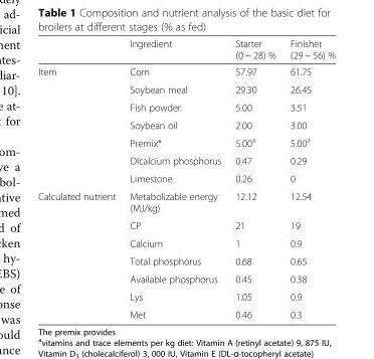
<table><thead><tr><td></td><td>Ingredient</td><td>Starter (0 ~ 28) %</td><td>Finisher (29 ~ 56) %</td></tr></thead><tbody><tr><td rowspan="7">Item</td><td>Corn</td><td>57.97</td><td>61.75</td></tr><tr><td>Soybean meal</td><td>29.30</td><td>26.45</td></tr><tr><td>Fish powder</td><td>5.00</td><td>3.51</td></tr><tr><td>Soybean oil</td><td>2.00</td><td>3.00</td></tr><tr><td>Premix*</td><td>5.00<sup>a</sup></td><td>5.00<sup>a</sup></td></tr><tr><td>Dicalcium phosphorus</td><td>0.47</td><td>0.29</td></tr><tr><td>Limestone</td><td>0.26</td><td>0</td></tr><tr><td rowspan="7">Calculated nutrient</td><td>Metabolizable energy (MJ/kg)</td><td>12.12</td><td>12.54</td></tr><tr><td>CP</td><td>21</td><td>19</td></tr><tr><td>Calcium</td><td>1</td><td>0.9</td></tr><tr><td>Total phosphorus</td><td>0.68</td><td>0.65</td></tr><tr><td>Available phosphorus</td><td>0.45</td><td>0.38</td></tr><tr><td>Lys</td><td>1.05</td><td>0.9</td></tr><tr><td>Met</td><td>0.46</td><td>0.3</td></tr></tbody></table>